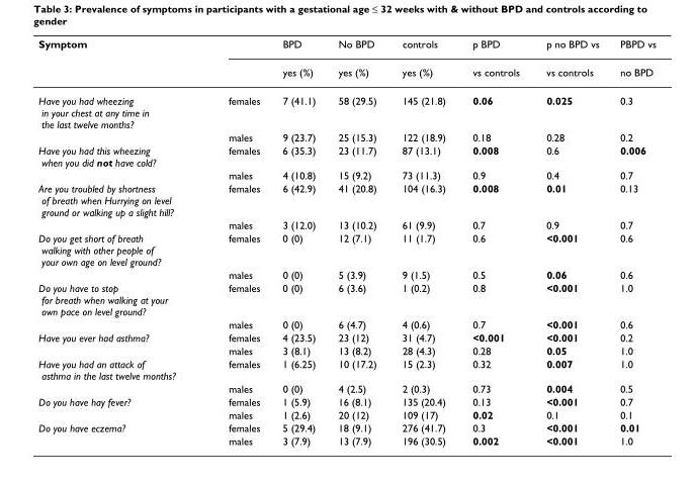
<table><thead><tr><td rowspan="2">Symptom</td><td rowspan="2"></td><td rowspan="2">BPD yes (%)</td><td rowspan="2">No BPD yes (%)</td><td rowspan="2">controls yes (%)</td><td rowspan="2">p BPD vs controls</td><td rowspan="2">p no BPD vs vs controls</td><td rowspan="2">PBPD vs no BPD</td></tr><tr></tr></thead><tbody><tr><td rowspan="2">Have you had wheezing in your chest at any time in the last twelve months?</td><td>females</td><td>7 (41.1)</td><td>58 (29.5)</td><td>145 (21.8)</td><td>0.06</td><td>0.025</td><td>0.3</td></tr><tr><td>males</td><td>9 (23.7)</td><td>25 (15.3)</td><td>122 (18.9)</td><td>0.18</td><td>0.28</td><td>0.2</td></tr><tr><td rowspan="2">Have you had this wheezing when you did not have cold?</td><td>females</td><td>6 (35.3)</td><td>23 (11.7)</td><td>87 (13.1)</td><td>0.008</td><td>0.6</td><td>0.006</td></tr><tr><td>males</td><td>4 (10.8)</td><td>15 (9.2)</td><td>73 (11.3)</td><td>0.9</td><td>0.4</td><td>0.7</td></tr><tr><td rowspan="2">Are you troubled by shortness of breath when Hurrying on level ground or walking up a slight hill?</td><td>females</td><td>6 (42.9)</td><td>41 (20.8)</td><td>104 (16.3)</td><td>0.008</td><td>0.01</td><td>0.13</td></tr><tr><td>males</td><td>3 (12.0)</td><td>13 (10.2)</td><td>61 (9.9)</td><td>0.7</td><td>0.9</td><td>0.7</td></tr><tr><td rowspan="2">Do you get short of breath walking with other people of your own age on level ground?</td><td>females</td><td>0 (0)</td><td>12 (7.1)</td><td>11 (1.7)</td><td>0.6</td><td>&lt;0.001</td><td>0.6</td></tr><tr><td>males</td><td>0 (0)</td><td>5 (3.9)</td><td>9 (1.5)</td><td>0.5</td><td>0.06</td><td>0.6</td></tr><tr><td rowspan="2">Do you have to stop for breath when walking at your own pace on level ground?</td><td>females</td><td>0 (0)</td><td>6 (3.6)</td><td>1 (0.2)</td><td>0.8</td><td>&lt;0.001</td><td>1.0</td></tr><tr><td>males</td><td>0 (0)</td><td>6 (4.7)</td><td>4 (0.6)</td><td>0.7</td><td>&lt;0.001</td><td>0.6</td></tr><tr><td rowspan="2">Have you ever had asthma?</td><td>females</td><td>4 (23.5)</td><td>23 (12)</td><td>31 (4.7)</td><td>&lt;0.001</td><td>&lt;0.001</td><td>0.2</td></tr><tr><td>males</td><td>3 (8.1)</td><td>13 (8.2)</td><td>28 (4.3)</td><td>0.28</td><td>0.05</td><td>1.0</td></tr><tr><td rowspan="2">Have you had an attack of asthma in the last twelve months?</td><td>females</td><td>1 (6.25)</td><td>10 (17.2)</td><td>15 (2.3)</td><td>0.32</td><td>0.007</td><td>1.0</td></tr><tr><td>males</td><td>0 (0)</td><td>4 (2.5)</td><td>2 (0.3)</td><td>0.73</td><td>0.004</td><td>0.5</td></tr><tr><td rowspan="2">Do you have hay fever?</td><td>females</td><td>1 (5.9)</td><td>16 (8.1)</td><td>135 (20.4)</td><td>0.13</td><td>&lt;0.001</td><td>0.7</td></tr><tr><td>males</td><td>1 (2.6)</td><td>20 (12)</td><td>109 (17)</td><td>0.02</td><td>0.1</td><td>0.1</td></tr><tr><td rowspan="2">Do you have eczema?</td><td>females</td><td>5 (29.4)</td><td>18 (9.1)</td><td>276 (41.7)</td><td>0.3</td><td>&lt;0.001</td><td>0.01</td></tr><tr><td>males</td><td>3 (7.9)</td><td>13 (7.9)</td><td>196 (30.5)</td><td>0.002</td><td>&lt;0.001</td><td>1.0</td></tr></tbody></table>